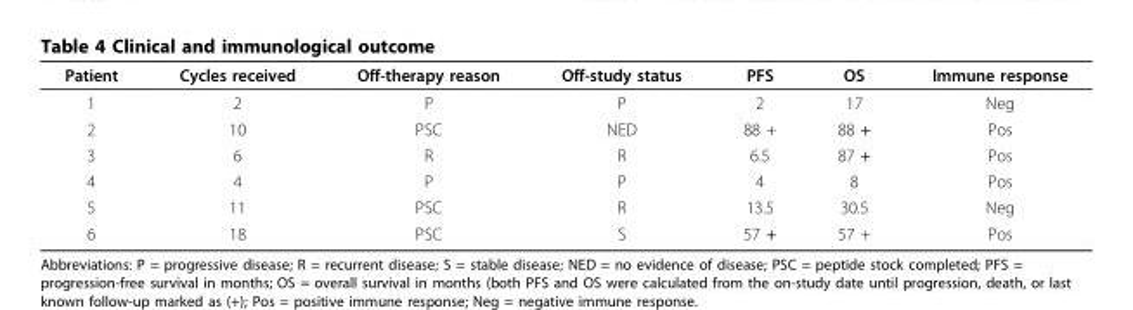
<table><thead><tr><td>Patient</td><td>Cycles received</td><td>Off-therapy reason</td><td>Off-study status</td><td>PFS</td><td>OS</td><td>Immune response</td></tr></thead><tbody><tr><td>1</td><td>2</td><td>P</td><td>P</td><td>2</td><td>17</td><td>Neg</td></tr><tr><td>2</td><td>10</td><td>PSC</td><td>NED</td><td>88 +</td><td>88 +</td><td>Pos</td></tr><tr><td>3</td><td>6</td><td>R</td><td>R</td><td>6.5</td><td>87 +</td><td>Pos</td></tr><tr><td>4</td><td>4</td><td>P</td><td>P</td><td>4</td><td>8</td><td>Pos</td></tr><tr><td>5</td><td>11</td><td>PSC</td><td>R</td><td>13.5</td><td>30.5</td><td>Neg</td></tr><tr><td>6</td><td>18</td><td>PSC</td><td>S</td><td>57 +</td><td>57 +</td><td>Pos</td></tr></tbody></table>